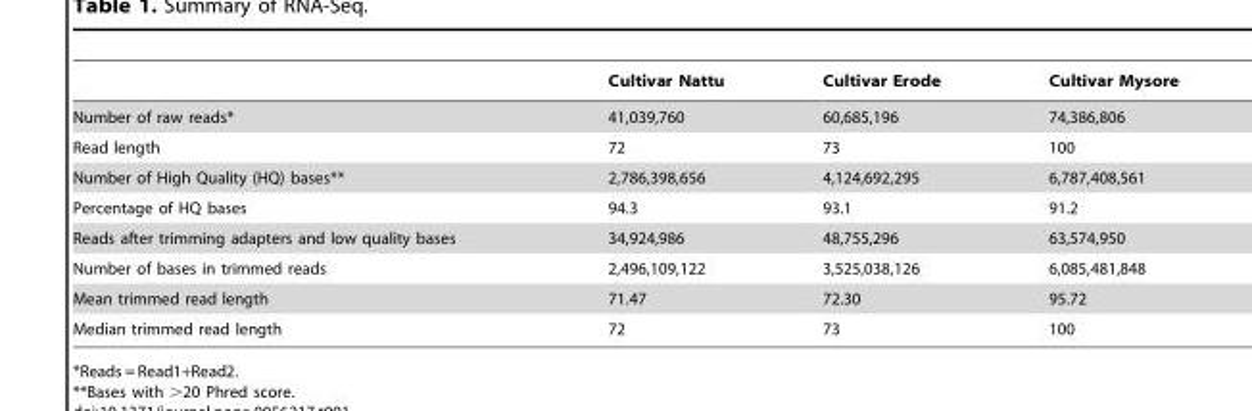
<table><thead><tr><td></td><td>Cultivar Nattu</td><td>Cultivar Erode</td><td>Cultivar Mysore</td></tr></thead><tbody><tr><td>Number of raw reads*</td><td>41,039,760</td><td>60,685,196</td><td>74,386,806</td></tr><tr><td>Read length</td><td>72</td><td>73</td><td>100</td></tr><tr><td>Number of High Quality (HQ) bases**</td><td>2,786,398,656</td><td>4,124,692,295</td><td>6,787,408,561</td></tr><tr><td>Percentage of HQ bases</td><td>94.3</td><td>93.1</td><td>91.2</td></tr><tr><td>Reads after trimming adapters and low quality bases</td><td>34,924,986</td><td>48,755,296</td><td>63,574,950</td></tr><tr><td>Number of bases in trimmed reads</td><td>2,496,109,122</td><td>3,525,038,126</td><td>6,085,481,848</td></tr><tr><td>Mean trimmed read length</td><td>71.47</td><td>72.30</td><td>95.72</td></tr><tr><td>Median trimmed read length</td><td>72</td><td>73</td><td>100</td></tr></tbody></table>